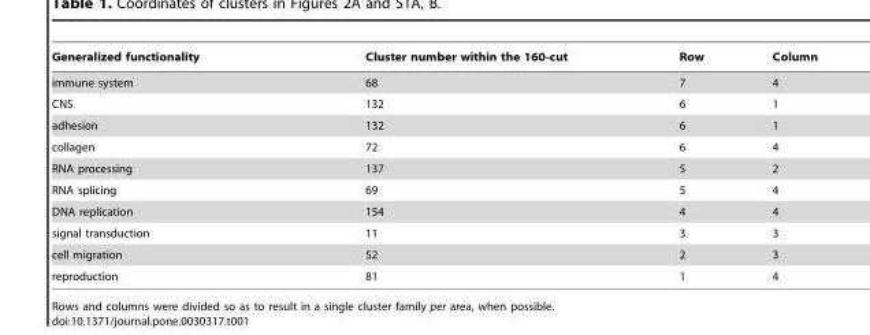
<table><thead><tr><td>Generalized functionality</td><td>Cluster number within the 160-cut</td><td>Row</td><td>Column</td></tr></thead><tbody><tr><td>immune system</td><td>68</td><td>7</td><td>4</td></tr><tr><td>CNS</td><td>132</td><td>6</td><td>1</td></tr><tr><td>adhesion</td><td>132</td><td>6</td><td>1</td></tr><tr><td>collagen</td><td>72</td><td>6</td><td>4</td></tr><tr><td>RNA processing</td><td>137</td><td>5</td><td>2</td></tr><tr><td>RNA splicing</td><td>69</td><td>5</td><td>4</td></tr><tr><td>DNA replication</td><td>154</td><td>4</td><td>4</td></tr><tr><td>signal transduction</td><td>11</td><td>3</td><td>3</td></tr><tr><td>cell migration</td><td>52</td><td>2</td><td>3</td></tr><tr><td>reproduction</td><td>81</td><td>1</td><td>4</td></tr></tbody></table>